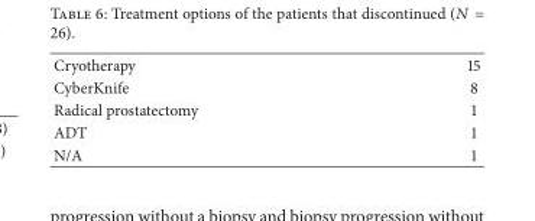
<table><tbody><tr><td>Cryotherapy</td><td>15</td></tr><tr><td>CyberKnife</td><td>8</td></tr><tr><td>Radical prostatectomy</td><td>1</td></tr><tr><td>ADT</td><td>1</td></tr><tr><td>N/A</td><td>1</td></tr></tbody></table>